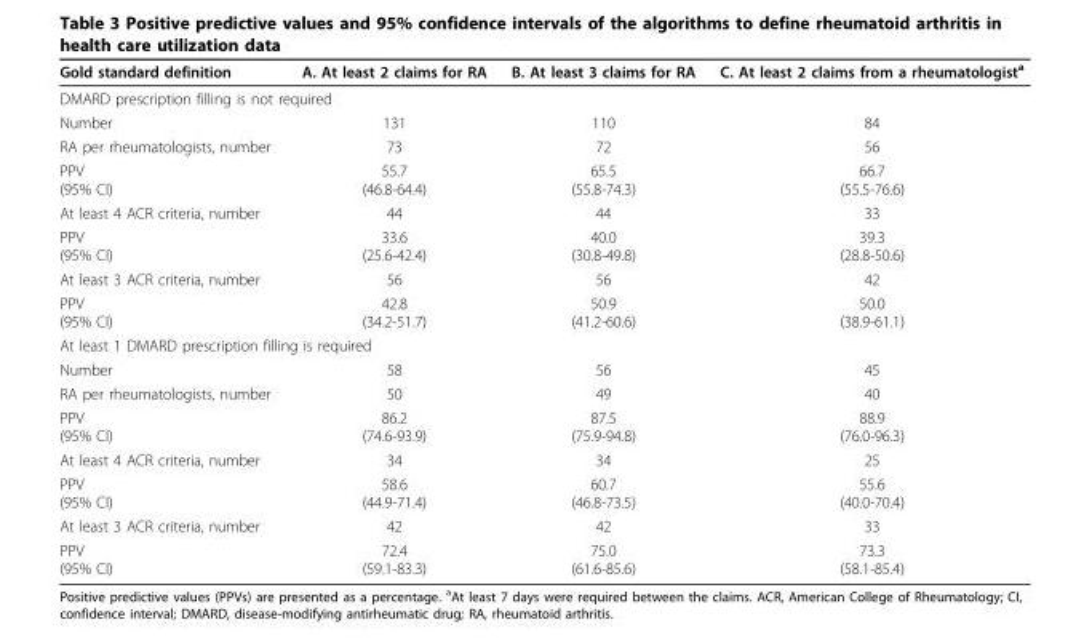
<table><thead><tr><td>Gold standard definition</td><td>A. At least 2 claims for RA</td><td>B. At least 3 claims for RA</td><td>C. At least 2 claims from a rheumatologist<sup>a</sup></td></tr></thead><tbody><tr><td colspan="4">DMARD prescription filling is not required</td></tr><tr><td>Number</td><td>131</td><td>110</td><td>84</td></tr><tr><td>RA per rheumatologists, number</td><td>73</td><td>72</td><td>56</td></tr><tr><td>PPV (95% CI)</td><td>55.7 (46.8-64.4)</td><td>65.5 (55.8-74.3)</td><td>66.7 (55.5-76.6)</td></tr><tr><td>At least 4 ACR criteria, number</td><td>44</td><td>44</td><td>33</td></tr><tr><td>PPV (95% CI)</td><td>33.6 (25.6-42.4)</td><td>40.0 (30.8-49.8)</td><td>39.3 (28.8-50.6)</td></tr><tr><td>At least 3 ACR criteria, number</td><td>56</td><td>56</td><td>42</td></tr><tr><td>PPV (95% CI)</td><td>42.8 (34.2-51.7)</td><td>50.9 (41.2-60.6)</td><td>50.0 (38.9-61.1)</td></tr><tr><td colspan="4">At least 1 DMARD prescription filling is required</td></tr><tr><td>Number</td><td>58</td><td>56</td><td>45</td></tr><tr><td>RA per rheumatologists, number</td><td>50</td><td>49</td><td>40</td></tr><tr><td>PPV (95% CI)</td><td>86.2 (74.6-93.9)</td><td>87.5 (75.9-94.8)</td><td>88.9 (76.0-96.3)</td></tr><tr><td>At least 4 ACR criteria, number</td><td>34</td><td>34</td><td>25</td></tr><tr><td>PPV (95% CI)</td><td>58.6 (44.9-71.4)</td><td>60.7 (46.8-73.5)</td><td>55.6 (40.0-70.4)</td></tr><tr><td>At least 3 ACR criteria, number</td><td>42</td><td>42</td><td>33</td></tr><tr><td>PPV (95% CI)</td><td>72.4 (59.1-83.3)</td><td>75.0 (61.6-85.6)</td><td>73.3 (58.1-85.4)</td></tr></tbody></table>